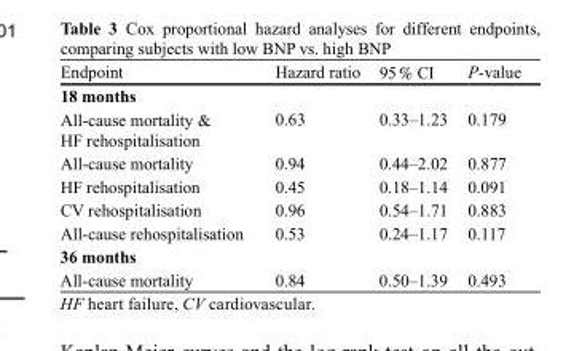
<table><thead><tr><td>Endpoint</td><td>Hazard ratio</td><td>95 % CI</td><td>P-value</td></tr></thead><tbody><tr><td colspan="4">18 months</td></tr><tr><td>All-cause mortality &amp; HF rehospitalisation</td><td>0.63</td><td>0.33–1.23</td><td>0.179</td></tr><tr><td>All-cause mortality</td><td>0.94</td><td>0.44–2.02</td><td>0.877</td></tr><tr><td>HF rehospitalisation</td><td>0.45</td><td>0.18–1.14</td><td>0.091</td></tr><tr><td>CV rehospitalisation</td><td>0.96</td><td>0.54–1.71</td><td>0.883</td></tr><tr><td>All-cause rehospitalisation</td><td>0.53</td><td>0.24–1.17</td><td>0.117</td></tr><tr><td colspan="4">36 months</td></tr><tr><td>All-cause mortality</td><td>0.84</td><td>0.50–1.39</td><td>0.493</td></tr></tbody></table>